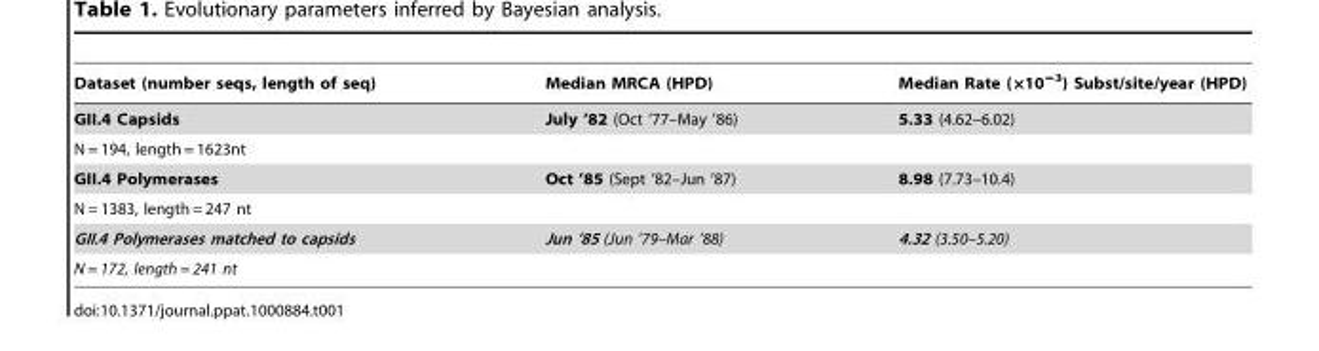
<table><thead><tr><td>Dataset (number seqs, length of seq)</td><td>Median MRCA (HPD)</td><td>Median Rate (×10<sup>−3</sup>) Subst/site/year (HPD)</td></tr></thead><tbody><tr><td>GII.4 Capsids</td><td>July ’82 (Oct ’77–May ’86)</td><td>5.33 (4.62–6.02)</td></tr><tr><td colspan="3">N = 194, length = 1623nt</td></tr><tr><td>GII.4 Polymerases</td><td>Oct ’85 (Sept ’82–Jun ’87)</td><td>8.98 (7.73–10.4)</td></tr><tr><td colspan="3">N = 1383, length = 247 nt</td></tr><tr><td>GII.4 Polymerases matched to capsids</td><td>Jun ’85 (Jun ’79–Mar ’88)</td><td>4.32 (3.50–5.20)</td></tr><tr><td>N = 172, length = 241 nt</td><td></td><td></td></tr></tbody></table>